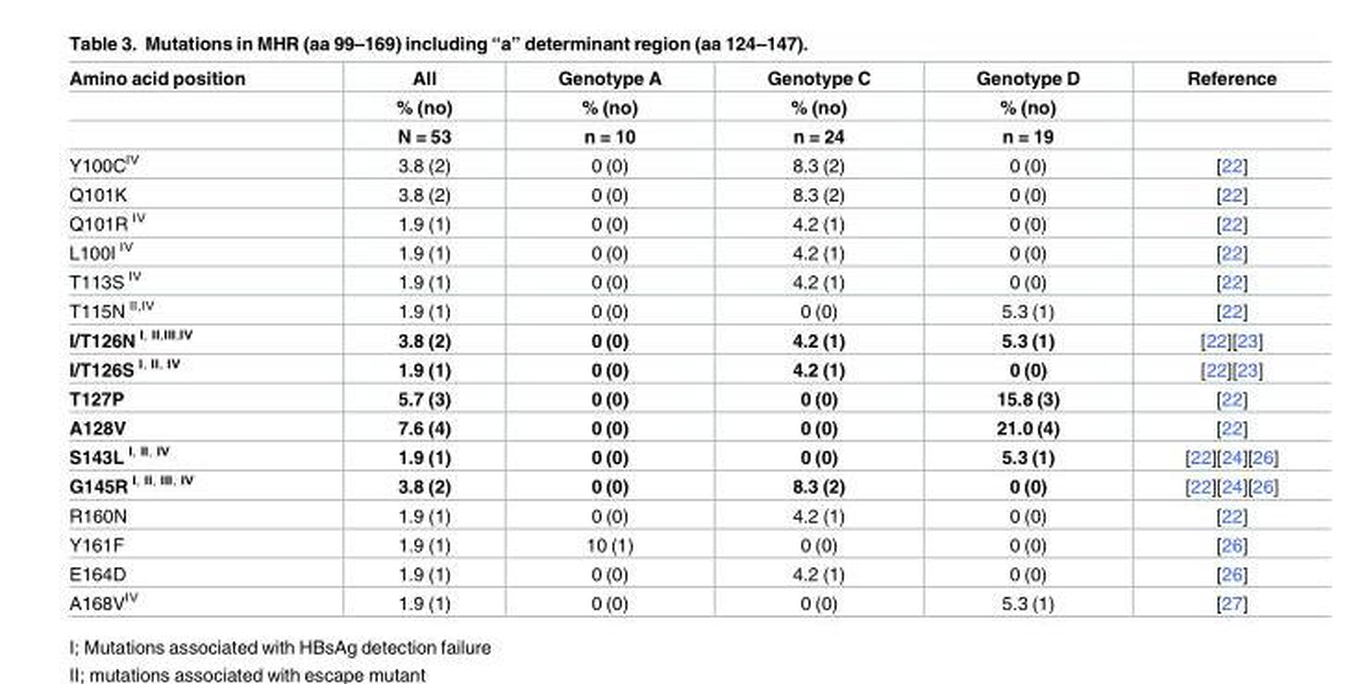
<table><thead><tr><td rowspan="3">Amino acid position</td><td rowspan="3">All % (no) N = 53</td><td rowspan="3">Genotype A % (no) n = 10</td><td rowspan="3">Genotype C % (no) n = 24</td><td rowspan="3">Genotype D % (no) n = 19</td><td rowspan="3">Reference</td></tr><tr></tr><tr></tr></thead><tbody><tr><td>Y100C<sup>IV</sup></td><td>3.8 (2)</td><td>0 (0)</td><td>8.3 (2)</td><td>0 (0)</td><td>[22]</td></tr><tr><td>Q101K</td><td>3.8 (2)</td><td>0 (0)</td><td>8.3 (2)</td><td>0 (0)</td><td>[22]</td></tr><tr><td>Q101R <sup>IV</sup></td><td>1.9 (1)</td><td>0 (0)</td><td>4.2 (1)</td><td>0 (0)</td><td>[22]</td></tr><tr><td>L100I <sup>IV</sup></td><td>1.9 (1)</td><td>0 (0)</td><td>4.2 (1)</td><td>0 (0)</td><td>[22]</td></tr><tr><td>T113S <sup>IV</sup></td><td>1.9 (1)</td><td>0 (0)</td><td>4.2 (1)</td><td>0 (0)</td><td>[22]</td></tr><tr><td>T115N <sup>II,IV</sup></td><td>1.9 (1)</td><td>0 (0)</td><td>0 (0)</td><td>5.3 (1)</td><td>[22]</td></tr><tr><td>I/T126N <sup>I, II,III,IV</sup></td><td>3.8 (2)</td><td>0 (0)</td><td>4.2 (1)</td><td>5.3 (1)</td><td>[22][23]</td></tr><tr><td>I/T126S <sup>I, II, IV</sup></td><td>1.9 (1)</td><td>0 (0)</td><td>4.2 (1)</td><td>0 (0)</td><td>[22][23]</td></tr><tr><td>T127P</td><td>5.7 (3)</td><td>0 (0)</td><td>0 (0)</td><td>15.8 (3)</td><td>[22]</td></tr><tr><td>A128V</td><td>7.6 (4)</td><td>0 (0)</td><td>0 (0)</td><td>21.0 (4)</td><td>[22]</td></tr><tr><td>S143L <sup>I, II, IV</sup></td><td>1.9 (1)</td><td>0 (0)</td><td>0 (0)</td><td>5.3 (1)</td><td>[22][24][26]</td></tr><tr><td>G145R <sup>I, II, III, IV</sup></td><td>3.8 (2)</td><td>0 (0)</td><td>8.3 (2)</td><td>0 (0)</td><td>[22][24][26]</td></tr><tr><td>R160N</td><td>1.9 (1)</td><td>0 (0)</td><td>4.2 (1)</td><td>0 (0)</td><td>[22]</td></tr><tr><td>Y161F</td><td>1.9 (1)</td><td>10 (1)</td><td>0 (0)</td><td>0 (0)</td><td>[26]</td></tr><tr><td>E164D</td><td>1.9 (1)</td><td>0 (0)</td><td>4.2 (1)</td><td>0 (0)</td><td>[26]</td></tr><tr><td>A168V<sup>IV</sup></td><td>1.9 (1)</td><td>0 (0)</td><td>0 (0)</td><td>5.3 (1)</td><td>[27]</td></tr></tbody></table>